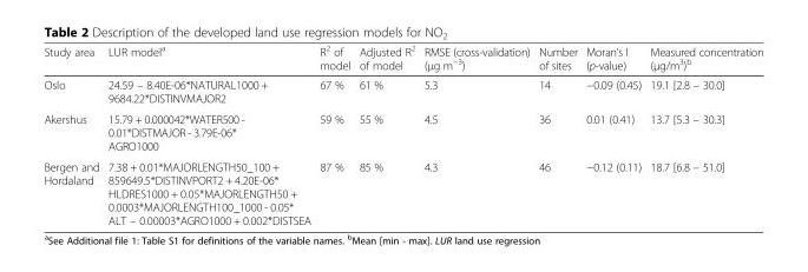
<table><thead><tr><td>Study area</td><td>LUR model<sup>a</sup></td><td>R<sup>2</sup> of model</td><td>Adjusted R<sup>2</sup> of model</td><td>RMSE (cross-validation) (μg m<sup>−3</sup>)</td><td>Number of sites</td><td>Moran’s I (p-value)</td><td>Measured concentration (μg/m<sup>3</sup>)<sup>b</sup></td></tr></thead><tbody><tr><td>Oslo</td><td>24.59 – 8.40E-06*NATURAL1000 + 9684.22*DISTINVMAJOR2</td><td>67 %</td><td>61 %</td><td>5.3</td><td>14</td><td>−0.09 (0.45)</td><td>19.1 [2.8 – 30.0]</td></tr><tr><td>Akershus</td><td>15.79 + 0.000042*WATER500 - 0.01*DISTMAJOR - 3.79E-06* AGRO1000</td><td>59 %</td><td>55 %</td><td>4.5</td><td>36</td><td>0.01 (0.41)</td><td>13.7 [5.3 – 30.3]</td></tr><tr><td>Bergen and Hordaland</td><td>7.38 + 0.01*MAJORLENGTH50_100 + 859649.5*DISTINVPORT2 + 4.20E-06* HLDRES1000 + 0.05*MAJORLENGTH50 + 0.0003*MAJORLENGTH100_1000 - 0.05* ALT – 0.00003*AGRO1000 + 0.002*DISTSEA</td><td>87 %</td><td>85 %</td><td>4.3</td><td>46</td><td>−0.12 (0.11)</td><td>18.7 [6.8 – 51.0]</td></tr></tbody></table>